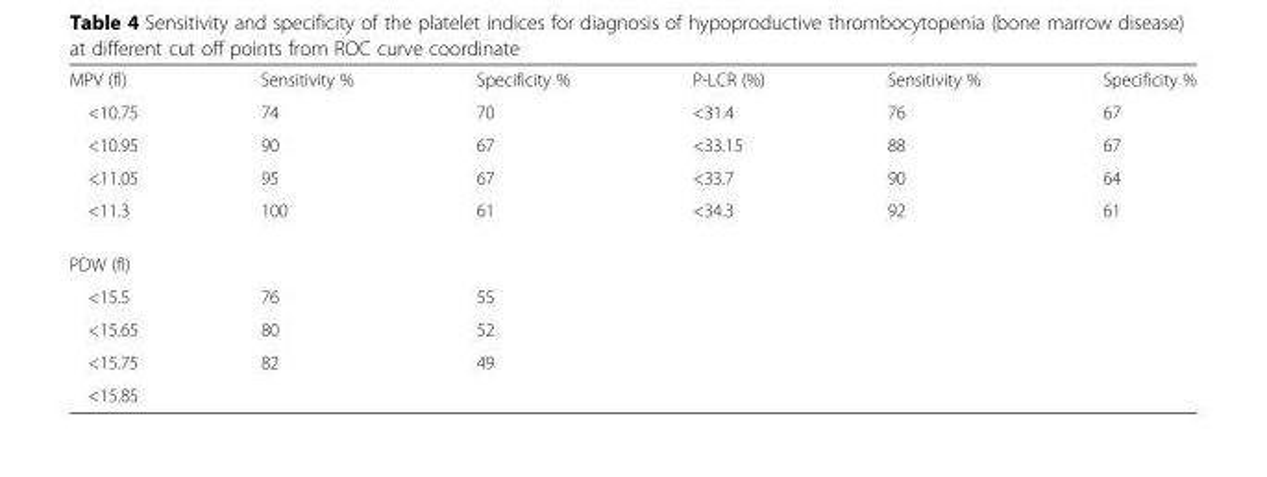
<table><tbody><tr><td>MPV (fl)</td><td>Sensitivity %</td><td>Specificity %</td><td>P-LCR (%)</td><td>Sensitivity %</td><td>Specificity %</td></tr><tr><td>&lt;10.75</td><td>74</td><td>70</td><td>&lt;31.4</td><td>76</td><td>67</td></tr><tr><td>&lt;10.95</td><td>90</td><td>67</td><td>&lt;33.15</td><td>88</td><td>67</td></tr><tr><td>&lt;11.05</td><td>95</td><td>67</td><td>&lt;33.7</td><td>90</td><td>64</td></tr><tr><td>&lt;11.3</td><td>100</td><td>61</td><td>&lt;34.3</td><td>92</td><td>61</td></tr><tr><td colspan="6">PDW (fl)</td></tr><tr><td>&lt;15.5</td><td>76</td><td>55</td><td></td><td></td><td></td></tr><tr><td>&lt;15.65</td><td>80</td><td>52</td><td></td><td></td><td></td></tr><tr><td>&lt;15.75</td><td>82</td><td>49</td><td></td><td></td><td></td></tr><tr><td>&lt;15.85</td><td></td><td></td><td></td><td></td><td></td></tr></tbody></table>